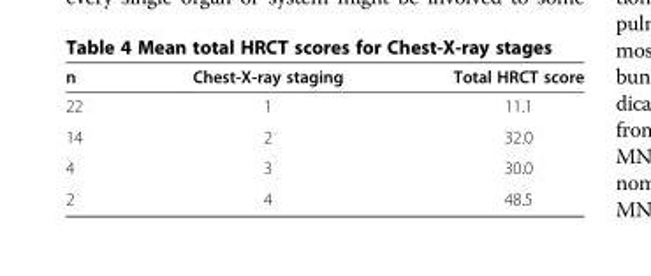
<table><thead><tr><td>n</td><td>Chest-X-ray staging</td><td>Total HRCT score</td></tr></thead><tbody><tr><td>22</td><td>1</td><td>11.1</td></tr><tr><td>14</td><td>2</td><td>32.0</td></tr><tr><td>4</td><td>3</td><td>30.0</td></tr><tr><td>2</td><td>4</td><td>48.5</td></tr></tbody></table>